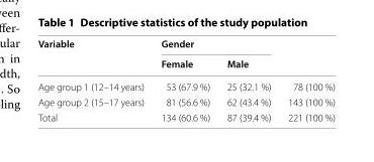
<table><thead><tr><td rowspan="2">Variable</td><td colspan="2">Gender</td><td rowspan="2"></td></tr><tr><td>Female</td><td>Male</td></tr></thead><tbody><tr><td>Age group 1 (12–14 years)</td><td>53 (67.9 %)</td><td>25 (32.1 %)</td><td>78 (100 %)</td></tr><tr><td>Age group 2 (15–17 years)</td><td>81 (56.6 %)</td><td>62 (43.4 %)</td><td>143 (100 %)</td></tr><tr><td>Total</td><td>134 (60.6 %)</td><td>87 (39.4 %)</td><td>221 (100 %)</td></tr></tbody></table>